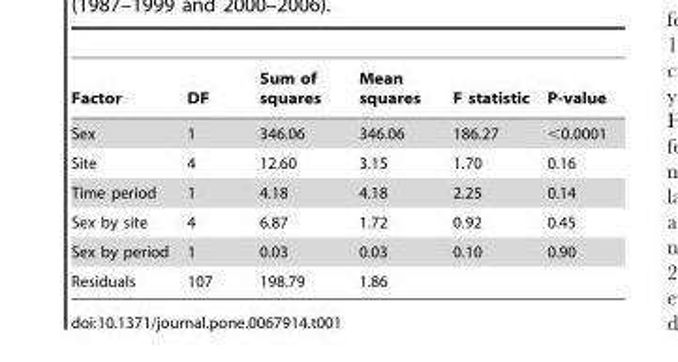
<table><thead><tr><td>Factor</td><td>DF</td><td>Sum of squares</td><td>Mean squares</td><td>F statistic</td><td>P-value</td></tr></thead><tbody><tr><td>Sex</td><td>1</td><td>346.06</td><td>346.06</td><td>186.27</td><td>&lt;0.0001</td></tr><tr><td>Site</td><td>4</td><td>12.60</td><td>3.15</td><td>1.70</td><td>0.16</td></tr><tr><td>Time period</td><td>1</td><td>4.18</td><td>4.18</td><td>2.25</td><td>0.14</td></tr><tr><td>Sex by site</td><td>4</td><td>6.87</td><td>1.72</td><td>0.92</td><td>0.45</td></tr><tr><td>Sex by period</td><td>1</td><td>0.03</td><td>0.03</td><td>0.10</td><td>0.90</td></tr><tr><td>Residuals</td><td>107</td><td>198.79</td><td>1.86</td><td></td><td></td></tr></tbody></table>